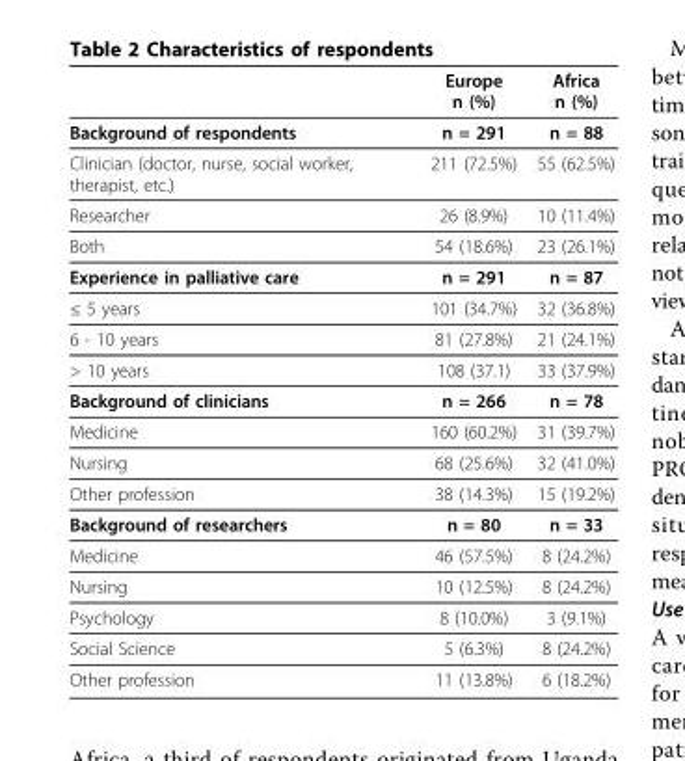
<table><thead><tr><td></td><td>Europe n (%)</td><td>Africa n (%)</td></tr></thead><tbody><tr><td>Background of respondents</td><td>n = 291</td><td>n = 88</td></tr><tr><td>Clinician (doctor, nurse, social worker, therapist, etc.)</td><td>211 (72.5%)</td><td>55 (62.5%)</td></tr><tr><td>Researcher</td><td>26 (8.9%)</td><td>10 (11.4%)</td></tr><tr><td>Both</td><td>54 (18.6%)</td><td>23 (26.1%)</td></tr><tr><td>Experience in palliative care</td><td>n = 291</td><td>n = 87</td></tr><tr><td>≤ 5 years</td><td>101 (34.7%)</td><td>32 (36.8%)</td></tr><tr><td>6 - 10 years</td><td>81 (27.8%)</td><td>21 (24.1%)</td></tr><tr><td>&gt; 10 years</td><td>108 (37.1)</td><td>33 (37.9%)</td></tr><tr><td>Background of clinicians</td><td>n = 266</td><td>n = 78</td></tr><tr><td>Medicine</td><td>160 (60.2%)</td><td>31 (39.7%)</td></tr><tr><td>Nursing</td><td>68 (25.6%)</td><td>32 (41.0%)</td></tr><tr><td>Other profession</td><td>38 (14.3%)</td><td>15 (19.2%)</td></tr><tr><td>Background of researchers</td><td>n = 80</td><td>n = 33</td></tr><tr><td>Medicine</td><td>46 (57.5%)</td><td>8 (24.2%)</td></tr><tr><td>Nursing</td><td>10 (12.5%)</td><td>8 (24.2%)</td></tr><tr><td>Psychology</td><td>8 (10.0%)</td><td>3 (9.1%)</td></tr><tr><td>Social Science</td><td>5 (6.3%)</td><td>8 (24.2%)</td></tr><tr><td>Other profession</td><td>11 (13.8%)</td><td>6 (18.2%)</td></tr></tbody></table>